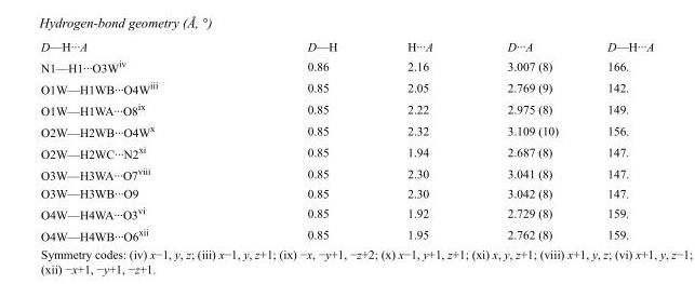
<table><tbody><tr><td>D—H···A</td><td>D—H</td><td>H···A</td><td>D···A</td><td>D—H···A</td></tr><tr><td>N1—H1···O3W<sup>iv</sup></td><td>0.86</td><td>2.16</td><td>3.007 (8)</td><td>166.</td></tr><tr><td>O1W—H1WB···O4W<sup>iii</sup></td><td>0.85</td><td>2.05</td><td>2.769 (9)</td><td>142.</td></tr><tr><td>O1W—H1WA···O8<sup>ix</sup></td><td>0.85</td><td>2.22</td><td>2.975 (8)</td><td>149.</td></tr><tr><td>O2W—H2WB···O4W<sup>x</sup></td><td>0.85</td><td>2.32</td><td>3.109 (10)</td><td>156.</td></tr><tr><td>O2W—H2WC···N2<sup>xi</sup></td><td>0.85</td><td>1.94</td><td>2.687 (8)</td><td>147.</td></tr><tr><td>O3W—H3WA···O7<sup>viii</sup></td><td>0.85</td><td>2.30</td><td>3.041 (8)</td><td>147.</td></tr><tr><td>O3W—H3WB···O9</td><td>0.85</td><td>2.30</td><td>3.042 (8)</td><td>147.</td></tr><tr><td>O4W—H4WA···O3<sup>vi</sup></td><td>0.85</td><td>1.92</td><td>2.729 (8)</td><td>159.</td></tr><tr><td>O4W—H4WB···O6<sup>xii</sup></td><td>0.85</td><td>1.95</td><td>2.762 (8)</td><td>159.</td></tr></tbody></table>